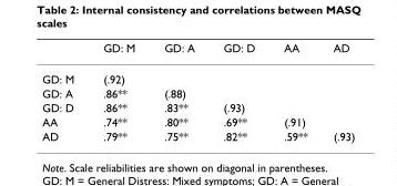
<table><thead><tr><td></td><td>GD: M</td><td>GD: A</td><td>GD: D</td><td>AA</td><td>AD</td></tr></thead><tbody><tr><td>GD: M</td><td>(.92)</td><td></td><td></td><td></td><td></td></tr><tr><td>GD: A</td><td>.86**</td><td>(.88)</td><td></td><td></td><td></td></tr><tr><td>GD: D</td><td>.86**</td><td>.83**</td><td>(.93)</td><td></td><td></td></tr><tr><td>AA</td><td>.74**</td><td>.80**</td><td>.69**</td><td>(.91)</td><td></td></tr><tr><td>AD</td><td>.79**</td><td>.75**</td><td>.82**</td><td>.59**</td><td>(.93)</td></tr></tbody></table>